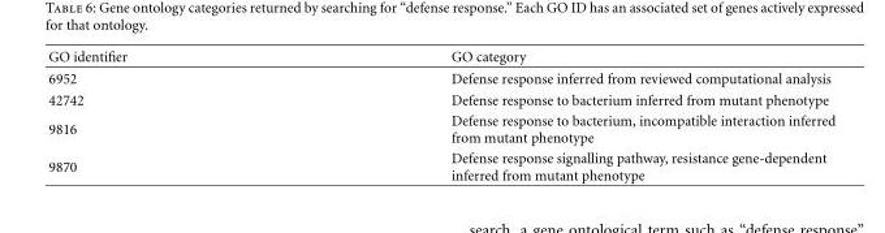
<table><thead><tr><td>GO identifier</td><td>GO category</td></tr></thead><tbody><tr><td>6952</td><td>Defense response inferred from reviewed computational analysis</td></tr><tr><td>42742</td><td>Defense response to bacterium inferred from mutant phenotype</td></tr><tr><td>9816</td><td>Defense response to bacterium, incompatible interaction inferred from mutant phenotype</td></tr><tr><td>9870</td><td>Defense response signalling pathway, resistance gene-dependent inferred from mutant phenotype</td></tr></tbody></table>